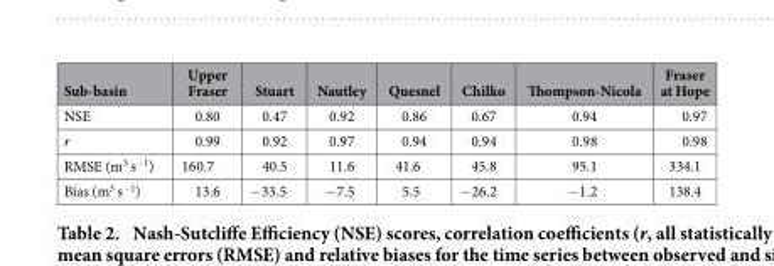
<table><thead><tr><td>Sub-basin</td><td>Upper Fraser</td><td>Stuart</td><td>Nautley</td><td>Quesnel</td><td>Chilko</td><td>Thompson-Nicola</td><td>Fraser at Hope</td></tr></thead><tbody><tr><td>NSE</td><td>0.80</td><td>0.47</td><td>0.92</td><td>0.86</td><td>0.67</td><td>0.94</td><td>0.97</td></tr><tr><td>r</td><td>0.99</td><td>0.92</td><td>0.97</td><td>0.94</td><td>0.94</td><td>0.98</td><td>0.98</td></tr><tr><td>RMSE (m<sup>3</sup> s<sup>−1</sup>)</td><td>160.7</td><td>40.5</td><td>11.6</td><td>41.6</td><td>45.8</td><td>95.1</td><td>334.1</td></tr><tr><td>Bias (m<sup>3</sup> s<sup>−1</sup>)</td><td>13.6</td><td>−33.5</td><td>−7.5</td><td>5.5</td><td>−26.2</td><td>−1.2</td><td>138.4</td></tr></tbody></table>